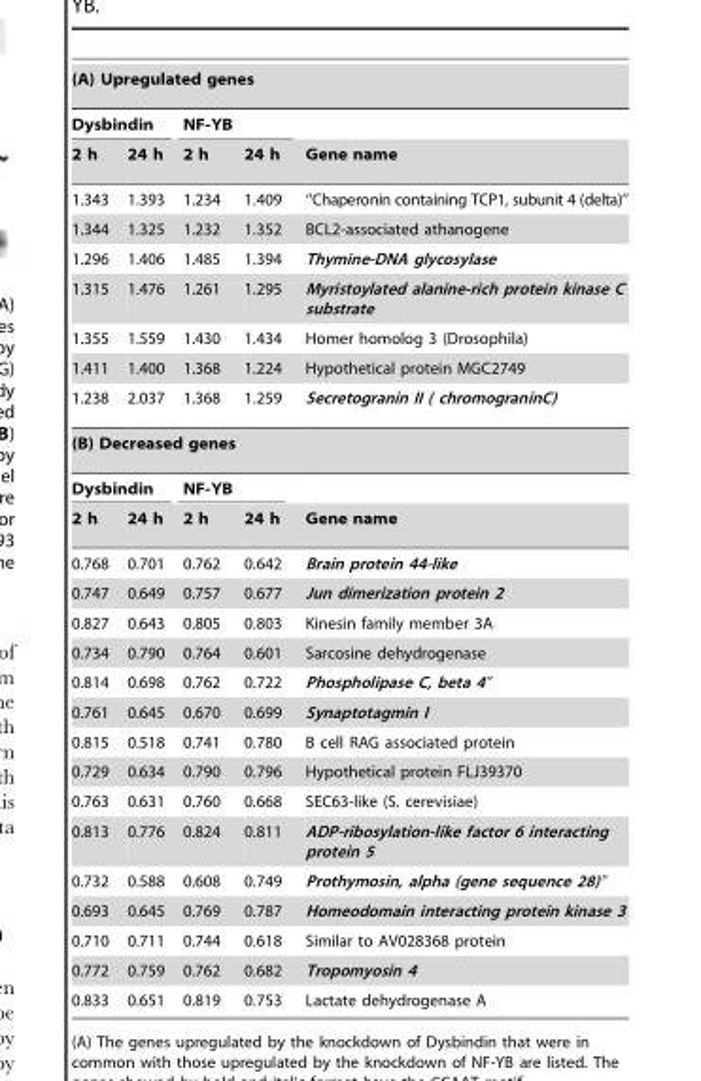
<table><tbody><tr><td colspan="5">(A) Upregulated genes</td></tr><tr><td colspan="2">Dysbindin</td><td colspan="2">NF-YB</td><td></td></tr><tr><td>2 h</td><td>24 h</td><td>2 h</td><td>24 h</td><td>Gene name</td></tr><tr><td>1.343</td><td>1.393</td><td>1.234</td><td>1.409</td><td>‘‘Chaperonin containing TCP1, subunit 4 (delta)’’</td></tr><tr><td>1.344</td><td>1.325</td><td>1.232</td><td>1.352</td><td>BCL2-associated athanogene</td></tr><tr><td>1.296</td><td>1.406</td><td>1.485</td><td>1.394</td><td>Thymine-DNA glycosylase</td></tr><tr><td>1.315</td><td>1.476</td><td>1.261</td><td>1.295</td><td>Myristoylated alanine-rich protein kinase C substrate</td></tr><tr><td>1.355</td><td>1.559</td><td>1.430</td><td>1.434</td><td>Homer homolog 3 (Drosophila)</td></tr><tr><td>1.411</td><td>1.400</td><td>1.368</td><td>1.224</td><td>Hypothetical protein MGC2749</td></tr><tr><td>1.238</td><td>2.037</td><td>1.368</td><td>1.259</td><td>Secretogranin II ( chromograninC)</td></tr><tr><td colspan="5">(B) Decreased genes</td></tr><tr><td colspan="2">Dysbindin</td><td colspan="2">NF-YB</td><td></td></tr><tr><td>2 h</td><td>24 h</td><td>2 h</td><td>24 h</td><td>Gene name</td></tr><tr><td>0.768</td><td>0.701</td><td>0.762</td><td>0.642</td><td>Brain protein 44-like</td></tr><tr><td>0.747</td><td>0.649</td><td>0.757</td><td>0.677</td><td>Jun dimerization protein 2</td></tr><tr><td>0.827</td><td>0.643</td><td>0.805</td><td>0.803</td><td>Kinesin family member 3A</td></tr><tr><td>0.734</td><td>0.790</td><td>0.764</td><td>0.601</td><td>Sarcosine dehydrogenase</td></tr><tr><td>0.814</td><td>0.698</td><td>0.762</td><td>0.722</td><td>Phospholipase C, beta 4″</td></tr><tr><td>0.761</td><td>0.645</td><td>0.670</td><td>0.699</td><td>Synaptotagmin I</td></tr><tr><td>0.815</td><td>0.518</td><td>0.741</td><td>0.780</td><td>B cell RAG associated protein</td></tr><tr><td>0.729</td><td>0.634</td><td>0.790</td><td>0.796</td><td>Hypothetical protein FLJ39370</td></tr><tr><td>0.763</td><td>0.631</td><td>0.760</td><td>0.668</td><td>SEC63-like (S. cerevisiae)</td></tr><tr><td>0.813</td><td>0.776</td><td>0.824</td><td>0.811</td><td>ADP-ribosylation-like factor 6 interacting protein 5</td></tr><tr><td>0.732</td><td>0.588</td><td>0.608</td><td>0.749</td><td>Prothymosin, alpha (gene sequence 28)″</td></tr><tr><td>0.693</td><td>0.645</td><td>0.769</td><td>0.787</td><td>Homeodomain interacting protein kinase 3</td></tr><tr><td>0.710</td><td>0.711</td><td>0.744</td><td>0.618</td><td>Similar to AV028368 protein</td></tr><tr><td>0.772</td><td>0.759</td><td>0.762</td><td>0.682</td><td>Tropomyosin 4</td></tr><tr><td>0.833</td><td>0.651</td><td>0.819</td><td>0.753</td><td>Lactate dehydrogenase A</td></tr></tbody></table>